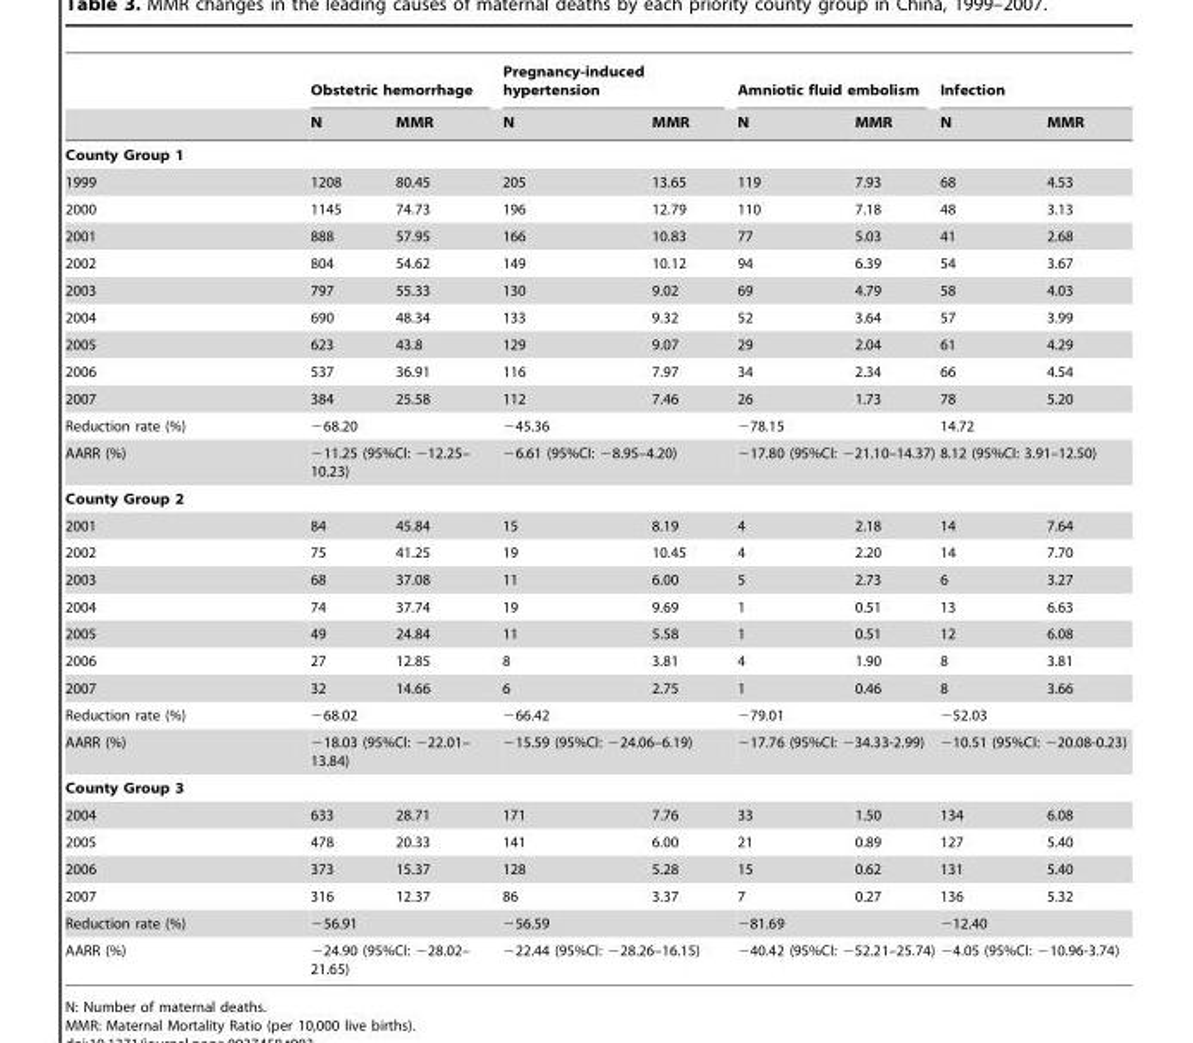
<table><thead><tr><td rowspan="2"></td><td colspan="2">Obstetric hemorrhage</td><td colspan="2">Pregnancy-induced hypertension</td><td colspan="2">Amniotic fluid embolism</td><td colspan="2">Infection</td></tr><tr><td>N</td><td>MMR</td><td>N</td><td>MMR</td><td>N</td><td>MMR</td><td>N</td><td>MMR</td></tr></thead><tbody><tr><td colspan="9">County Group 1</td></tr><tr><td>1999</td><td>1208</td><td>80.45</td><td>205</td><td>13.65</td><td>119</td><td>7.93</td><td>68</td><td>4.53</td></tr><tr><td>2000</td><td>1145</td><td>74.73</td><td>196</td><td>12.79</td><td>110</td><td>7.18</td><td>48</td><td>3.13</td></tr><tr><td>2001</td><td>888</td><td>57.95</td><td>166</td><td>10.83</td><td>77</td><td>5.03</td><td>41</td><td>2.68</td></tr><tr><td>2002</td><td>804</td><td>54.62</td><td>149</td><td>10.12</td><td>94</td><td>6.39</td><td>54</td><td>3.67</td></tr><tr><td>2003</td><td>797</td><td>55.33</td><td>130</td><td>9.02</td><td>69</td><td>4.79</td><td>58</td><td>4.03</td></tr><tr><td>2004</td><td>690</td><td>48.34</td><td>133</td><td>9.32</td><td>52</td><td>3.64</td><td>57</td><td>3.99</td></tr><tr><td>2005</td><td>623</td><td>43.8</td><td>129</td><td>9.07</td><td>29</td><td>2.04</td><td>61</td><td>4.29</td></tr><tr><td>2006</td><td>537</td><td>36.91</td><td>116</td><td>7.97</td><td>34</td><td>2.34</td><td>66</td><td>4.54</td></tr><tr><td>2007</td><td>384</td><td>25.58</td><td>112</td><td>7.46</td><td>26</td><td>1.73</td><td>78</td><td>5.20</td></tr><tr><td>Reduction rate (%)</td><td colspan="2">−68.20</td><td colspan="2">−45.36</td><td colspan="2">−78.15</td><td colspan="2">14.72</td></tr><tr><td>AARR (%)</td><td colspan="2">−11.25 (95%CI: −12.25– 10.23)</td><td colspan="2">−6.61 (95%CI: −8.95–4.20)</td><td colspan="2">−17.80 (95%CI: −21.10–14.37)</td><td colspan="2">8.12 (95%CI: 3.91–12.50)</td></tr><tr><td colspan="9">County Group 2</td></tr><tr><td>2001</td><td>84</td><td>45.84</td><td>15</td><td>8.19</td><td>4</td><td>2.18</td><td>14</td><td>7.64</td></tr><tr><td>2002</td><td>75</td><td>41.25</td><td>19</td><td>10.45</td><td>4</td><td>2.20</td><td>14</td><td>7.70</td></tr><tr><td>2003</td><td>68</td><td>37.08</td><td>11</td><td>6.00</td><td>5</td><td>2.73</td><td>6</td><td>3.27</td></tr><tr><td>2004</td><td>74</td><td>37.74</td><td>19</td><td>9.69</td><td>1</td><td>0.51</td><td>13</td><td>6.63</td></tr><tr><td>2005</td><td>49</td><td>24.84</td><td>11</td><td>5.58</td><td>1</td><td>0.51</td><td>12</td><td>6.08</td></tr><tr><td>2006</td><td>27</td><td>12.85</td><td>8</td><td>3.81</td><td>4</td><td>1.90</td><td>8</td><td>3.81</td></tr><tr><td>2007</td><td>32</td><td>14.66</td><td>6</td><td>2.75</td><td>1</td><td>0.46</td><td>8</td><td>3.66</td></tr><tr><td>Reduction rate (%)</td><td colspan="2">−68.02</td><td colspan="2">−66.42</td><td colspan="2">−79.01</td><td colspan="2">−52.03</td></tr><tr><td>AARR (%)</td><td colspan="2">−18.03 (95%CI: −22.01– 13.84)</td><td colspan="2">−15.59 (95%CI: −24.06–6.19)</td><td colspan="2">−17.76 (95%CI: −34.33-2.99)</td><td colspan="2">−10.51 (95%CI: −20.08-0.23)</td></tr><tr><td colspan="9">County Group 3</td></tr><tr><td>2004</td><td>633</td><td>28.71</td><td>171</td><td>7.76</td><td>33</td><td>1.50</td><td>134</td><td>6.08</td></tr><tr><td>2005</td><td>478</td><td>20.33</td><td>141</td><td>6.00</td><td>21</td><td>0.89</td><td>127</td><td>5.40</td></tr><tr><td>2006</td><td>373</td><td>15.37</td><td>128</td><td>5.28</td><td>15</td><td>0.62</td><td>131</td><td>5.40</td></tr><tr><td>2007</td><td>316</td><td>12.37</td><td>86</td><td>3.37</td><td>7</td><td>0.27</td><td>136</td><td>5.32</td></tr><tr><td>Reduction rate (%)</td><td colspan="2">−56.91</td><td colspan="2">−56.59</td><td colspan="2">−81.69</td><td colspan="2">−12.40</td></tr><tr><td>AARR (%)</td><td colspan="2">−24.90 (95%CI: −28.02– 21.65)</td><td colspan="2">−22.44 (95%CI: −28.26–16.15)</td><td colspan="2">−40.42 (95%CI: −52.21–25.74)</td><td colspan="2">−4.05 (95%CI: −10.96-3.74)</td></tr></tbody></table>